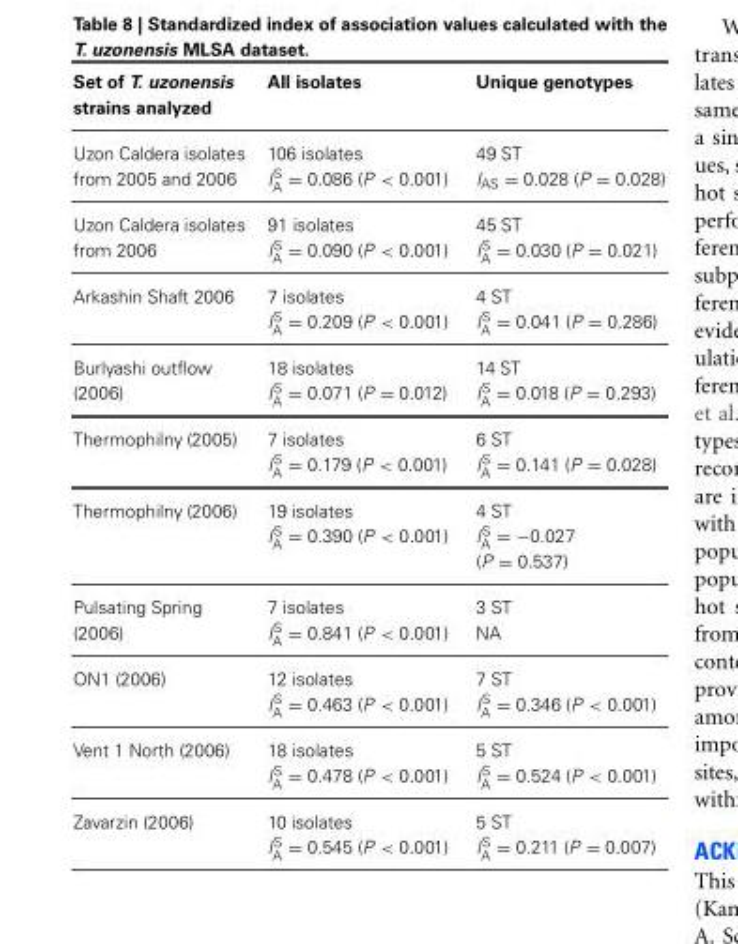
<table><thead><tr><td>Set of T. uzonensis strains analyzed</td><td>All isolates</td><td>Unique genotypes</td></tr></thead><tbody><tr><td>Uzon Caldera isolates from 2005 and 2006</td><td>106 isolates I<sup>S</sup> <sub>A</sub> = 0.086 (P &lt; 0.001)</td><td>49 ST I<sub>AS</sub> = 0.028 (P = 0.028)</td></tr><tr><td>Uzon Caldera isolates from 2006</td><td>91 isolates I<sup>S</sup> <sub>A</sub> = 0.090 (P &lt; 0.001)</td><td>45 ST I<sup>S</sup> <sub>A</sub> = 0.030 (P = 0.021)</td></tr><tr><td>Arkashin Shaft 2006</td><td>7 isolates I<sup>S</sup> <sub>A</sub> = 0.209 (P &lt; 0.001)</td><td>4 ST I<sup>S</sup> <sub>A</sub> = 0.041 (P = 0.286)</td></tr><tr><td>Burlyashi outflow (2006)</td><td>18 isolates I<sup>S</sup> <sub>A</sub> = 0.071 (P = 0.012)</td><td>14 ST I<sup>S</sup> <sub>A</sub> = 0.018 (P = 0.293)</td></tr><tr><td>Thermophilny (2005)</td><td>7 isolates I<sup>S</sup> <sub>A</sub> = 0.179 (P &lt; 0.001)</td><td>6 ST I<sup>S</sup> <sub>A</sub> = 0.141 (P = 0.028)</td></tr><tr><td>Thermophilny (2006)</td><td>19 isolates I<sup>S</sup> <sub>A</sub> = 0.390 (P &lt; 0.001)</td><td>4 ST I<sup>S</sup> <sub>A</sub> = −0.027 (P = 0.537)</td></tr><tr><td>Pulsating Spring (2006)</td><td>7 isolates I<sup>S</sup> <sub>A</sub> = 0.841 (P &lt; 0.001)</td><td>3 ST NA</td></tr><tr><td>ON1 (2006)</td><td>12 isolates I<sup>S</sup> <sub>A</sub> = 0.463 (P &lt; 0.001)</td><td>7 ST I<sup>S</sup> <sub>A</sub> = 0.346 (P &lt; 0.001)</td></tr><tr><td>Vent 1 North (2006)</td><td>18 isolates I<sup>S</sup> <sub>A</sub> = 0.478 (P &lt; 0.001)</td><td>5 ST I<sup>S</sup> <sub>A</sub> = 0.524 (P &lt; 0.001)</td></tr><tr><td>Zavarzin (2006)</td><td>10 isolates I<sup>S</sup> <sub>A</sub> = 0.545 (P &lt; 0.001)</td><td>5 ST I<sup>S</sup> <sub>A</sub> = 0.211 (P = 0.007)</td></tr></tbody></table>